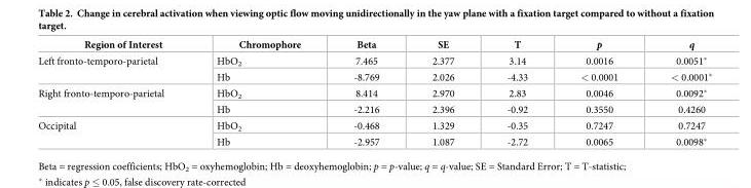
<table><thead><tr><td>Region of Interest</td><td>Chromophore</td><td>Beta</td><td>SE</td><td>T</td><td>p</td><td>q</td></tr></thead><tbody><tr><td rowspan="2">Left fronto-temporo-parietal</td><td>HbO<sub>2</sub></td><td>7.465</td><td>2.377</td><td>3.14</td><td>0.0016</td><td>0.0051*</td></tr><tr><td>Hb</td><td>-8.769</td><td>2.026</td><td>-4.33</td><td>&lt; 0.0001</td><td>&lt; 0.0001*</td></tr><tr><td rowspan="2">Right fronto-temporo-parietal</td><td>HbO<sub>2</sub></td><td>8.414</td><td>2.970</td><td>2.83</td><td>0.0046</td><td>0.0092*</td></tr><tr><td>Hb</td><td>-2.216</td><td>2.396</td><td>-0.92</td><td>0.3550</td><td>0.4260</td></tr><tr><td rowspan="2">Occipital</td><td>HbO<sub>2</sub></td><td>-0.468</td><td>1.329</td><td>-0.35</td><td>0.7247</td><td>0.7247</td></tr><tr><td>Hb</td><td>-2.957</td><td>1.087</td><td>-2.72</td><td>0.0065</td><td>0.0098*</td></tr></tbody></table>